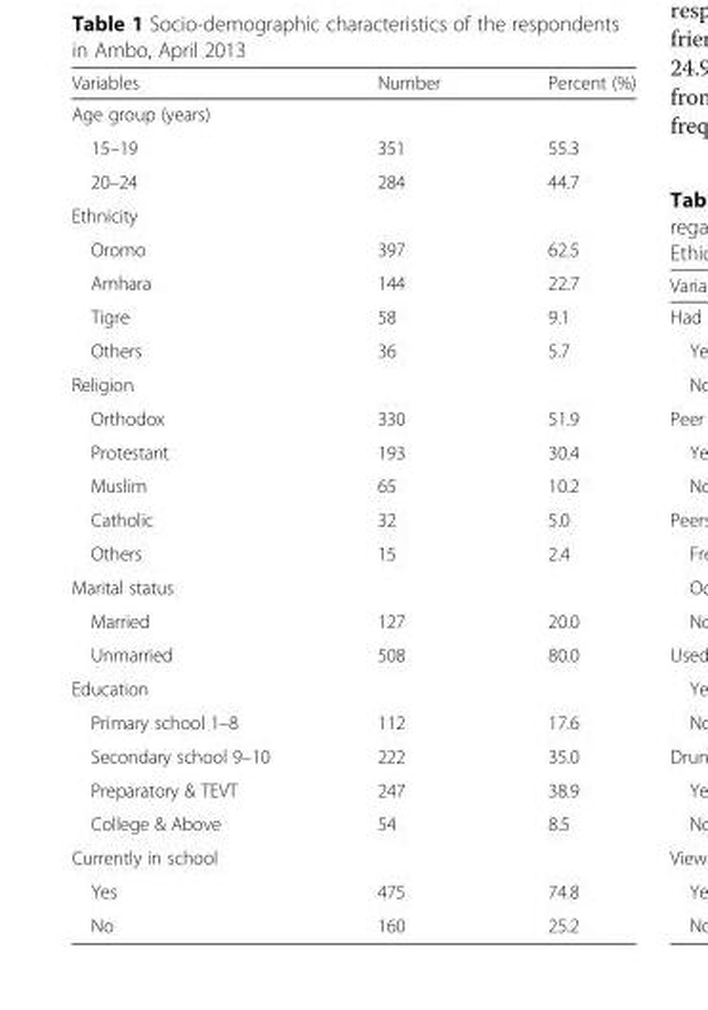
<table><thead><tr><td>Variables</td><td>Number</td><td>Percent (%)</td></tr></thead><tbody><tr><td colspan="3">Age group (years)</td></tr><tr><td>15–19</td><td>351</td><td>55.3</td></tr><tr><td>20–24</td><td>284</td><td>44.7</td></tr><tr><td colspan="3">Ethnicity</td></tr><tr><td>Oromo</td><td>397</td><td>62.5</td></tr><tr><td>Amhara</td><td>144</td><td>22.7</td></tr><tr><td>Tigre</td><td>58</td><td>9.1</td></tr><tr><td>Others</td><td>36</td><td>5.7</td></tr><tr><td colspan="3">Religion</td></tr><tr><td>Orthodox</td><td>330</td><td>51.9</td></tr><tr><td>Protestant</td><td>193</td><td>30.4</td></tr><tr><td>Muslim</td><td>65</td><td>10.2</td></tr><tr><td>Catholic</td><td>32</td><td>5.0</td></tr><tr><td>Others</td><td>15</td><td>2.4</td></tr><tr><td colspan="3">Marital status</td></tr><tr><td>Married</td><td>127</td><td>20.0</td></tr><tr><td>Unmarried</td><td>508</td><td>80.0</td></tr><tr><td colspan="3">Education</td></tr><tr><td>Primary school 1–8</td><td>112</td><td>17.6</td></tr><tr><td>Secondary school 9–10</td><td>222</td><td>35.0</td></tr><tr><td>Preparatory &amp; TEVT</td><td>247</td><td>38.9</td></tr><tr><td>College &amp; Above</td><td>54</td><td>8.5</td></tr><tr><td colspan="3">Currently in school</td></tr><tr><td>Yes</td><td>475</td><td>74.8</td></tr><tr><td>No</td><td>160</td><td>25.2</td></tr></tbody></table>